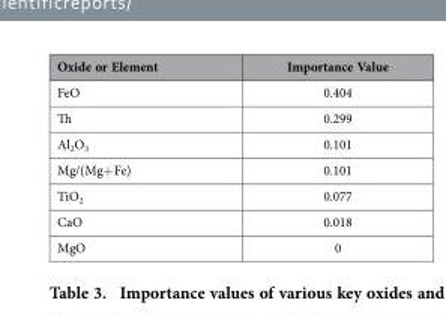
<table><thead><tr><td>Oxide or Element</td><td>Importance Value</td></tr></thead><tbody><tr><td>FeO</td><td>0.404</td></tr><tr><td>Th</td><td>0.299</td></tr><tr><td>Al<sub>2</sub>O<sub>3</sub></td><td>0.101</td></tr><tr><td>Mg/(Mg+ Fe)</td><td>0.101</td></tr><tr><td>TiO<sub>2</sub></td><td>0.077</td></tr><tr><td>CaO</td><td>0.018</td></tr><tr><td>MgO</td><td>0</td></tr></tbody></table>